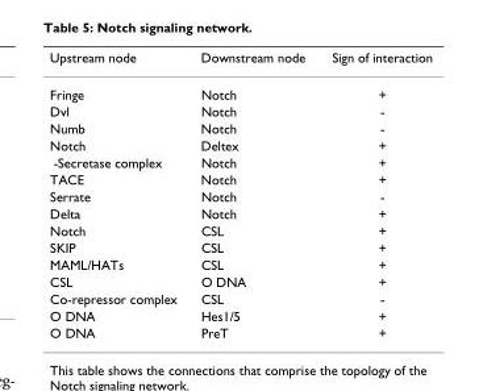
<table><thead><tr><td>Upstream node</td><td>Downstream node</td><td>Sign of interaction</td></tr></thead><tbody><tr><td>Fringe</td><td>Notch</td><td>+</td></tr><tr><td>Dvl</td><td>Notch</td><td>-</td></tr><tr><td>Numb</td><td>Notch</td><td>-</td></tr><tr><td>Notch</td><td>Deltex</td><td>+</td></tr><tr><td>-Secretase complex</td><td>Notch</td><td>+</td></tr><tr><td>TACE</td><td>Notch</td><td>+</td></tr><tr><td>Serrate</td><td>Notch</td><td>-</td></tr><tr><td>Delta</td><td>Notch</td><td>+</td></tr><tr><td>Notch</td><td>CSL</td><td>+</td></tr><tr><td>SKIP</td><td>CSL</td><td>+</td></tr><tr><td>MAML/HATs</td><td>CSL</td><td>+</td></tr><tr><td>CSL</td><td>O DNA</td><td>+</td></tr><tr><td>Co-repressor complex</td><td>CSL</td><td>-</td></tr><tr><td>O DNA</td><td>Hes1/5</td><td>+</td></tr><tr><td>O DNA</td><td>PreT</td><td>+</td></tr></tbody></table>